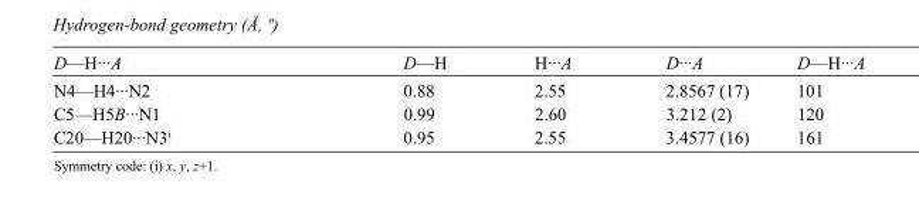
<table><tbody><tr><td>D—H···A</td><td>D—H</td><td>H···A</td><td>D···A</td><td>D—H···A</td></tr><tr><td>N4—H4···N2</td><td>0.88</td><td>2.55</td><td>2.8567 (17)</td><td>101</td></tr><tr><td>C5—H5B···N1</td><td>0.99</td><td>2.60</td><td>3.212 (2)</td><td>120</td></tr><tr><td>C20—H20···N3<sup>i</sup></td><td>0.95</td><td>2.55</td><td>3.4577 (16)</td><td>161</td></tr></tbody></table>